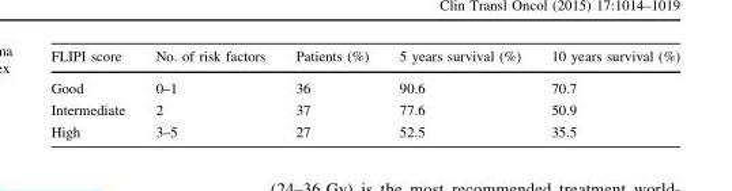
<table><thead><tr><td>FLIPI score</td><td>No. of risk factors</td><td>Patients (%)</td><td>5 years survival (%)</td><td>10 years survival (%)</td></tr></thead><tbody><tr><td>Good</td><td>0–1</td><td>36</td><td>90.6</td><td>70.7</td></tr><tr><td>Intermediate</td><td>2</td><td>37</td><td>77.6</td><td>50.9</td></tr><tr><td>High</td><td>3–5</td><td>27</td><td>52.5</td><td>35.5</td></tr></tbody></table>